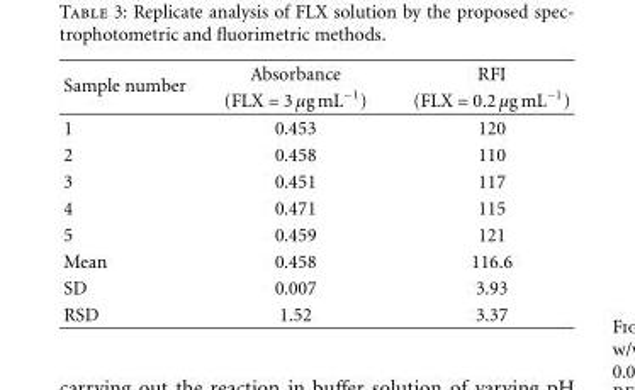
<table><thead><tr><td rowspan="2">Sample number</td><td rowspan="2">Absorbance (FLX = 3 μg mL<sup>−1</sup>)</td><td rowspan="2">RFI (FLX = 0.2 μgmL<sup>−1</sup>)</td></tr><tr></tr></thead><tbody><tr><td>1</td><td>0.453</td><td>120</td></tr><tr><td>2</td><td>0.458</td><td>110</td></tr><tr><td>3</td><td>0.451</td><td>117</td></tr><tr><td>4</td><td>0.471</td><td>115</td></tr><tr><td>5</td><td>0.459</td><td>121</td></tr><tr><td>Mean</td><td>0.458</td><td>116.6</td></tr><tr><td>SD</td><td>0.007</td><td>3.93</td></tr><tr><td>RSD</td><td>1.52</td><td>3.37</td></tr></tbody></table>